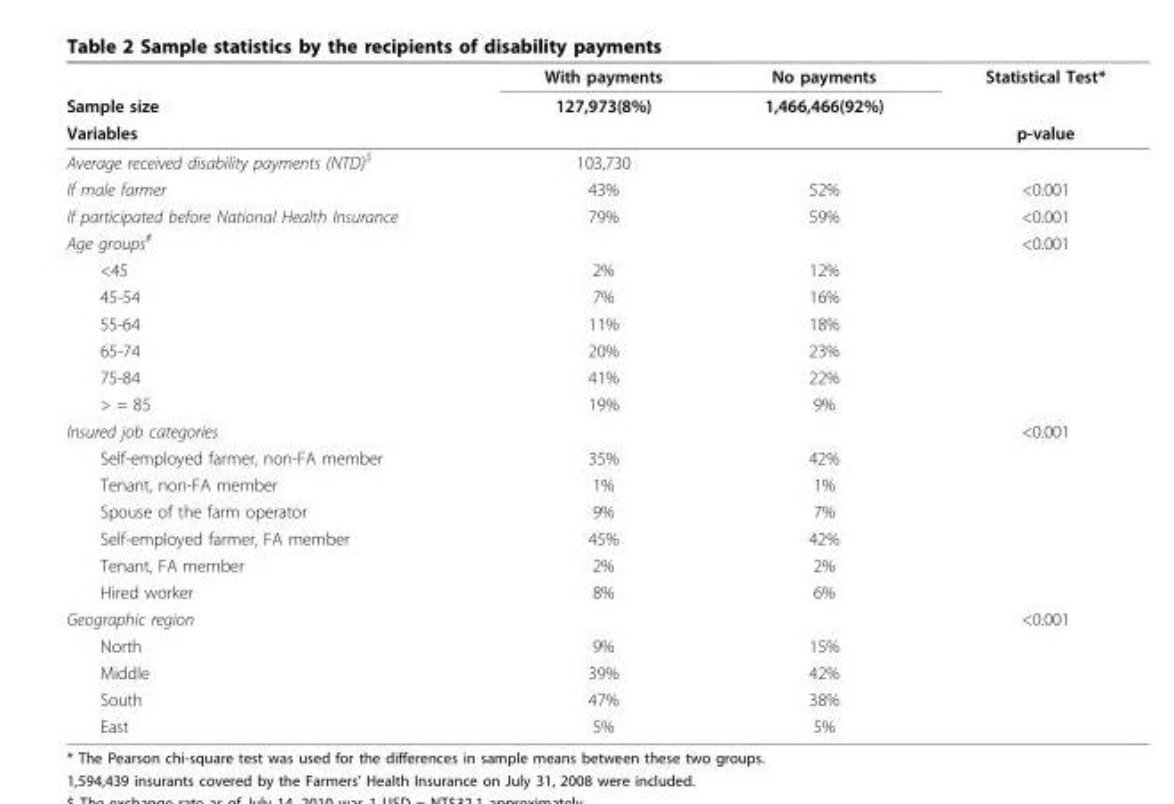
<table><thead><tr><td rowspan="3">Sample size Variables</td><td rowspan="3">With payments 127,973(8%)</td><td rowspan="3">No payments 1,466,466(92%)</td><td rowspan="3">Statistical Test* p-value</td></tr><tr></tr><tr></tr></thead><tbody><tr><td>Average received disability payments (NTD)<sup>$</sup></td><td>103,730</td><td></td><td></td></tr><tr><td>If male farmer</td><td>43%</td><td>52%</td><td>&lt;0.001</td></tr><tr><td>If participated before National Health Insurance</td><td>79%</td><td>59%</td><td>&lt;0.001</td></tr><tr><td>Age groups<sup>#</sup></td><td></td><td></td><td>&lt;0.001</td></tr><tr><td>&lt;45</td><td>2%</td><td>12%</td><td></td></tr><tr><td>45-54</td><td>7%</td><td>16%</td><td></td></tr><tr><td>55-64</td><td>11%</td><td>18%</td><td></td></tr><tr><td>65-74</td><td>20%</td><td>23%</td><td></td></tr><tr><td>75-84</td><td>41%</td><td>22%</td><td></td></tr><tr><td>&gt; = 85</td><td>19%</td><td>9%</td><td></td></tr><tr><td>Insured job categories</td><td></td><td></td><td>&lt;0.001</td></tr><tr><td>Self-employed farmer, non-FA member</td><td>35%</td><td>42%</td><td></td></tr><tr><td>Tenant, non-FA member</td><td>1%</td><td>1%</td><td></td></tr><tr><td>Spouse of the farm operator</td><td>9%</td><td>7%</td><td></td></tr><tr><td>Self-employed farmer, FA member</td><td>45%</td><td>42%</td><td></td></tr><tr><td>Tenant, FA member</td><td>2%</td><td>2%</td><td></td></tr><tr><td>Hired worker</td><td>8%</td><td>6%</td><td></td></tr><tr><td>Geographic region</td><td></td><td></td><td>&lt;0.001</td></tr><tr><td>North</td><td>9%</td><td>15%</td><td></td></tr><tr><td>Middle</td><td>39%</td><td>42%</td><td></td></tr><tr><td>South</td><td>47%</td><td>38%</td><td></td></tr><tr><td>East</td><td>5%</td><td>5%</td><td></td></tr></tbody></table>